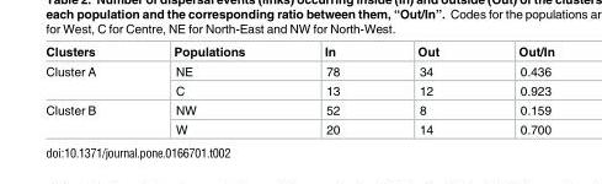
<table><thead><tr><td>Clusters</td><td>Populations</td><td>In</td><td>Out</td><td>Out/In</td></tr></thead><tbody><tr><td rowspan="2">Cluster A</td><td>NE</td><td>78</td><td>34</td><td>0.436</td></tr><tr><td>C</td><td>13</td><td>12</td><td>0.923</td></tr><tr><td rowspan="2">Cluster B</td><td>NW</td><td>52</td><td>8</td><td>0.159</td></tr><tr><td>W</td><td>20</td><td>14</td><td>0.700</td></tr></tbody></table>